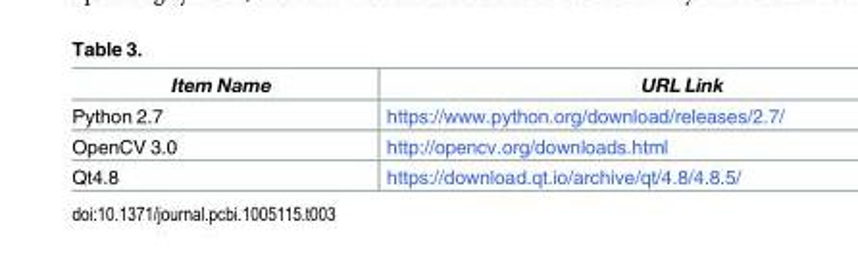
<table><thead><tr><td>Item Name</td><td>URL Link</td></tr></thead><tbody><tr><td>Python 2.7</td><td>https://www.python.org/download/releases/2.7/</td></tr><tr><td>OpenCV 3.0</td><td>http://opencv.org/downloads.html</td></tr><tr><td>Qt4.8</td><td>https://download.qt.io/archive/qt/4.8/4.8.5/</td></tr></tbody></table>